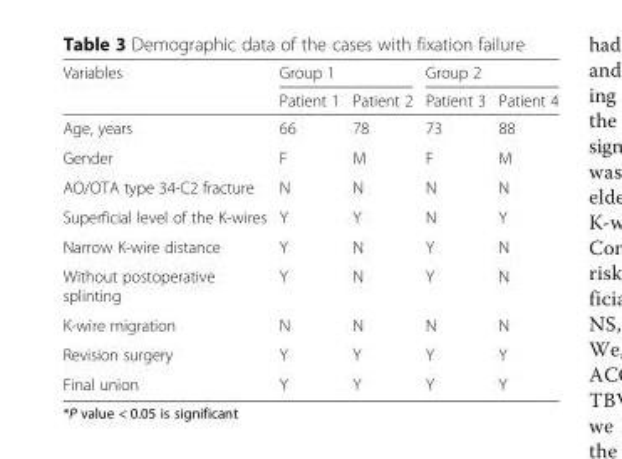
<table><thead><tr><td rowspan="2">Variables</td><td colspan="2">Group 1</td><td colspan="2">Group 2</td></tr><tr><td>Patient 1</td><td>Patient 2</td><td>Patient 3</td><td>Patient 4</td></tr></thead><tbody><tr><td>Age, years</td><td>66</td><td>78</td><td>73</td><td>88</td></tr><tr><td>Gender</td><td>F</td><td>M</td><td>F</td><td>M</td></tr><tr><td>AO/OTA type 34-C2 fracture</td><td>N</td><td>N</td><td>N</td><td>N</td></tr><tr><td>Superficial level of the K-wires</td><td>Y</td><td>Y</td><td>N</td><td>Y</td></tr><tr><td>Narrow K-wire distance</td><td>Y</td><td>N</td><td>Y</td><td>N</td></tr><tr><td>Without postoperative splinting</td><td>Y</td><td>N</td><td>Y</td><td>N</td></tr><tr><td>K-wire migration</td><td>N</td><td>N</td><td>N</td><td>N</td></tr><tr><td>Revision surgery</td><td>Y</td><td>Y</td><td>Y</td><td>Y</td></tr><tr><td>Final union</td><td>Y</td><td>Y</td><td>Y</td><td>Y</td></tr></tbody></table>